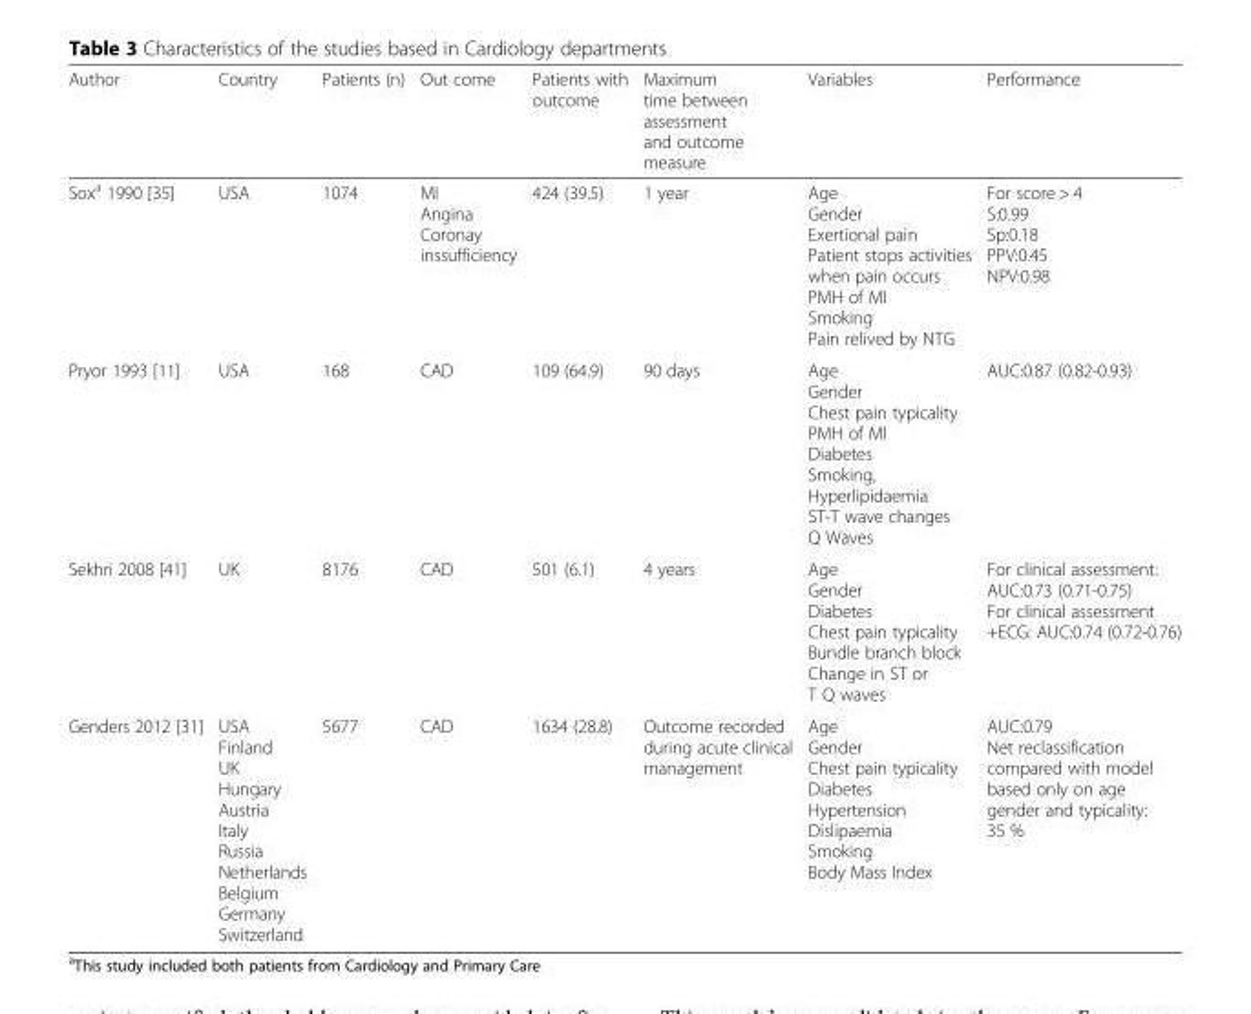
<table><thead><tr><td>Author</td><td>Country</td><td>Patients (n)</td><td>Out come</td><td>Patients with outcome</td><td>Maximum time between assessment and outcome measure</td><td>Variables</td><td>Performance</td></tr></thead><tbody><tr><td>Sox<sup>a</sup> 1990 [35]</td><td>USA</td><td>1074</td><td>MI Angina Coronay inssufficiency</td><td>424 (39.5)</td><td>1 year</td><td>Age Gender Exertional pain Patient stops activities when pain occurs PMH of MI Smoking Pain relived by NTG</td><td>For score &gt; 4 S:0.99 Sp:0.18 PPV:0.45 NPV:0.98</td></tr><tr><td>Pryor 1993 [11]</td><td>USA</td><td>168</td><td>CAD</td><td>109 (64.9)</td><td>90 days</td><td>Age Gender Chest pain typicality PMH of MI Diabetes Smoking, Hyperlipidaemia ST-T wave changes Q Waves</td><td>AUC:0.87 (0.82-0.93)</td></tr><tr><td>Sekhri 2008 [41]</td><td>UK</td><td>8176</td><td>CAD</td><td>501 (6.1)</td><td>4 years</td><td>Age Gender Diabetes Chest pain typicality Bundle branch block Change in ST or T Q waves</td><td>For clinical assessment: AUC:0.73 (0.71-0.75) For clinical assessment +ECG: AUC:0.74 (0.72-0.76)</td></tr><tr><td>Genders 2012 [31]</td><td>USA Finland UK Hungary Austria Italy Russia Netherlands Belgium Germany Switzerland</td><td>5677</td><td>CAD</td><td>1634 (28.8)</td><td>Outcome recorded during acute clinical management</td><td>Age Gender Chest pain typicality Diabetes Hypertension Dislipaemia Smoking Body Mass Index</td><td>AUC:0.79 Net reclassification compared with model based only on age gender and typicality: 35 %</td></tr></tbody></table>